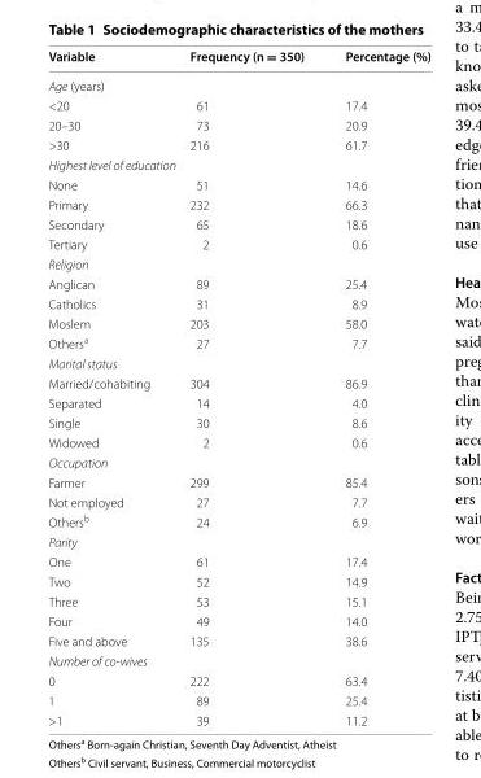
<table><thead><tr><td>Variable</td><td>Frequency (n = 350)</td><td>Percentage (%)</td></tr></thead><tbody><tr><td colspan="3">Age (years)</td></tr><tr><td>&lt;20</td><td>61</td><td>17.4</td></tr><tr><td>20–30</td><td>73</td><td>20.9</td></tr><tr><td>&gt;30</td><td>216</td><td>61.7</td></tr><tr><td colspan="3">Highest level of education</td></tr><tr><td>None</td><td>51</td><td>14.6</td></tr><tr><td>Primary</td><td>232</td><td>66.3</td></tr><tr><td>Secondary</td><td>65</td><td>18.6</td></tr><tr><td>Tertiary</td><td>2</td><td>0.6</td></tr><tr><td colspan="3">Religion</td></tr><tr><td>Anglican</td><td>89</td><td>25.4</td></tr><tr><td>Catholics</td><td>31</td><td>8.9</td></tr><tr><td>Moslem</td><td>203</td><td>58.0</td></tr><tr><td>Others<sup>a</sup></td><td>27</td><td>7.7</td></tr><tr><td colspan="3">Marital status</td></tr><tr><td>Married/cohabiting</td><td>304</td><td>86.9</td></tr><tr><td>Separated</td><td>14</td><td>4.0</td></tr><tr><td>Single</td><td>30</td><td>8.6</td></tr><tr><td>Widowed</td><td>2</td><td>0.6</td></tr><tr><td colspan="3">Occupation</td></tr><tr><td>Farmer</td><td>299</td><td>85.4</td></tr><tr><td>Not employed</td><td>27</td><td>7.7</td></tr><tr><td>Others<sup>b</sup></td><td>24</td><td>6.9</td></tr><tr><td colspan="3">Parity</td></tr><tr><td>One</td><td>61</td><td>17.4</td></tr><tr><td>Two</td><td>52</td><td>14.9</td></tr><tr><td>Three</td><td>53</td><td>15.1</td></tr><tr><td>Four</td><td>49</td><td>14.0</td></tr><tr><td>Five and above</td><td>135</td><td>38.6</td></tr><tr><td colspan="3">Number of co-wives</td></tr><tr><td>0</td><td>222</td><td>63.4</td></tr><tr><td>1</td><td>89</td><td>25.4</td></tr><tr><td>&gt;1</td><td>39</td><td>11.2</td></tr></tbody></table>